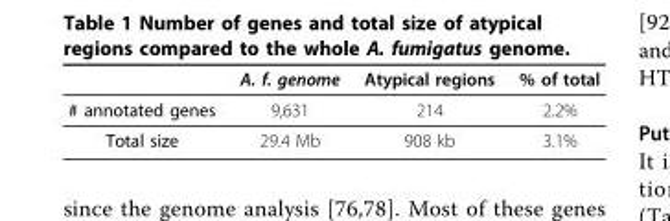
<table><thead><tr><td></td><td>A. f. genome</td><td>Atypical regions</td><td>% of total</td></tr></thead><tbody><tr><td># annotated genes</td><td>9,631</td><td>214</td><td>2.2%</td></tr><tr><td>Total size</td><td>29.4 Mb</td><td>908 kb</td><td>3.1%</td></tr></tbody></table>